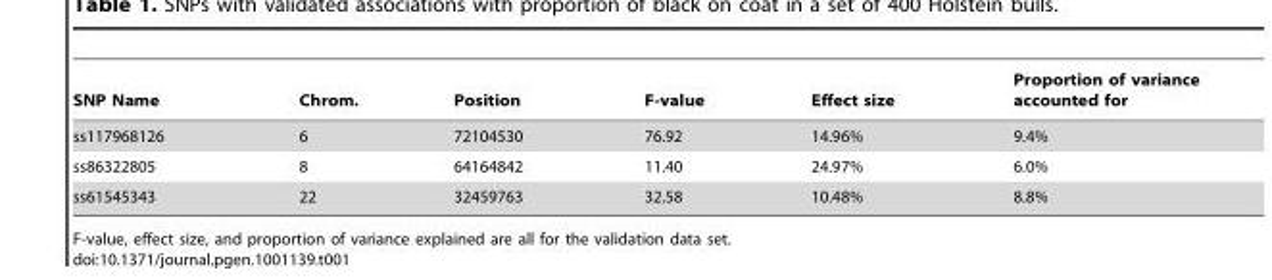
<table><thead><tr><td>SNP Name</td><td>Chrom.</td><td>Position</td><td>F-value</td><td>Effect size</td><td>Proportion of variance accounted for</td></tr></thead><tbody><tr><td>ss117968126</td><td>6</td><td>72104530</td><td>76.92</td><td>14.96%</td><td>9.4%</td></tr><tr><td>ss86322805</td><td>8</td><td>64164842</td><td>11.40</td><td>24.97%</td><td>6.0%</td></tr><tr><td>ss61545343</td><td>22</td><td>32459763</td><td>32.58</td><td>10.48%</td><td>8.8%</td></tr></tbody></table>